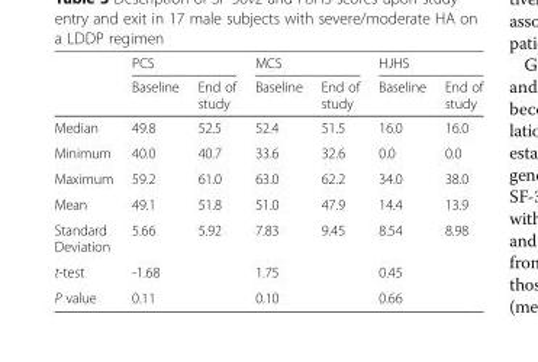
<table><thead><tr><td rowspan="2"></td><td colspan="2">PCS</td><td colspan="2">MCS</td><td colspan="2">HJHS</td></tr><tr><td>Baseline</td><td>End of study</td><td>Baseline</td><td>End of study</td><td>Baseline</td><td>End of study</td></tr></thead><tbody><tr><td>Median</td><td>49.8</td><td>52.5</td><td>52.4</td><td>51.5</td><td>16.0</td><td>16.0</td></tr><tr><td>Minimum</td><td>40.0</td><td>40.7</td><td>33.6</td><td>32.6</td><td>0.0</td><td>0.0</td></tr><tr><td>Maximum</td><td>59.2</td><td>61.0</td><td>63.0</td><td>62.2</td><td>34.0</td><td>38.0</td></tr><tr><td>Mean</td><td>49.1</td><td>51.8</td><td>51.0</td><td>47.9</td><td>14.4</td><td>13.9</td></tr><tr><td>Standard Deviation</td><td>5.66</td><td>5.92</td><td>7.83</td><td>9.45</td><td>8.54</td><td>8.98</td></tr><tr><td>t-test</td><td colspan="2">-1.68</td><td colspan="2">1.75</td><td colspan="2">0.45</td></tr><tr><td>P value</td><td colspan="2">0.11</td><td colspan="2">0.10</td><td colspan="2">0.66</td></tr></tbody></table>